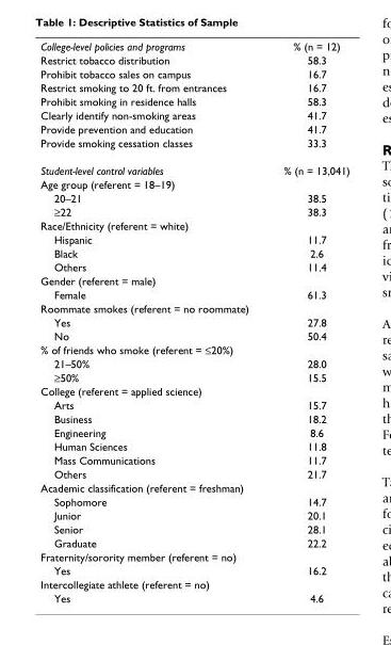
<table><tbody><tr><td>College-level policies and programs</td><td>% (n = 12)</td></tr><tr><td>Restrict tobacco distribution</td><td>58.3</td></tr><tr><td>Prohibit tobacco sales on campus</td><td>16.7</td></tr><tr><td>Restrict smoking to 20 ft. from entrances</td><td>16.7</td></tr><tr><td>Prohibit smoking in residence halls</td><td>58.3</td></tr><tr><td>Clearly identify non-smoking areas</td><td>41.7</td></tr><tr><td>Provide prevention and education</td><td>41.7</td></tr><tr><td>Provide smoking cessation classes</td><td>33.3</td></tr><tr><td>Student-level control variables</td><td>% (n = 13,041)</td></tr><tr><td colspan="2">Age group (referent = 18–19)</td></tr><tr><td>20–21</td><td>38.5</td></tr><tr><td>≥22</td><td>38.3</td></tr><tr><td colspan="2">Race/Ethnicity (referent = white)</td></tr><tr><td>Hispanic</td><td>11.7</td></tr><tr><td>Black</td><td>2.6</td></tr><tr><td>Others</td><td>11.4</td></tr><tr><td colspan="2">Gender (referent = male)</td></tr><tr><td>Female</td><td>61.3</td></tr><tr><td colspan="2">Roommate smokes (referent = no roommate)</td></tr><tr><td>Yes</td><td>27.8</td></tr><tr><td>No</td><td>50.4</td></tr><tr><td colspan="2">% of friends who smoke (referent = ≤20%)</td></tr><tr><td>21–50%</td><td>28.0</td></tr><tr><td>≥50%</td><td>15.5</td></tr><tr><td colspan="2">College (referent = applied science)</td></tr><tr><td>Arts</td><td>15.7</td></tr><tr><td>Business</td><td>18.2</td></tr><tr><td>Engineering</td><td>8.6</td></tr><tr><td>Human Sciences</td><td>11.8</td></tr><tr><td>Mass Communications</td><td>11.7</td></tr><tr><td>Others</td><td>21.7</td></tr><tr><td colspan="2">Academic classification (referent = freshman)</td></tr><tr><td>Sophomore</td><td>14.7</td></tr><tr><td>Junior</td><td>20.1</td></tr><tr><td>Senior</td><td>28.1</td></tr><tr><td>Graduate</td><td>22.2</td></tr><tr><td colspan="2">Fraternity/sorority member (referent = no)</td></tr><tr><td>Yes</td><td>16.2</td></tr><tr><td colspan="2">Intercollegiate athlete (referent = no)</td></tr><tr><td>Yes</td><td>4.6</td></tr></tbody></table>